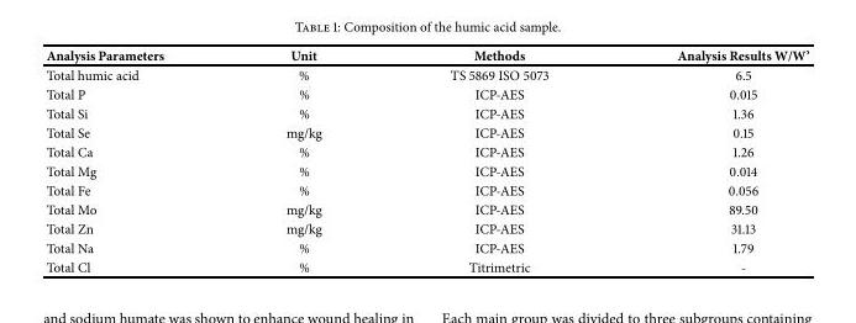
<table><thead><tr><td>Analysis Parameters</td><td>Unit</td><td>Methods</td><td>Analysis Results W/W’</td></tr></thead><tbody><tr><td>Total humic acid</td><td>%</td><td>TS 5869 ISO 5073</td><td>6.5</td></tr><tr><td>Total P</td><td>%</td><td>ICP-AES</td><td>0.015</td></tr><tr><td>Total Si</td><td>%</td><td>ICP-AES</td><td>1.36</td></tr><tr><td>Total Se</td><td>mg/kg</td><td>ICP-AES</td><td>0.15</td></tr><tr><td>Total Ca</td><td>%</td><td>ICP-AES</td><td>1.26</td></tr><tr><td>Total Mg</td><td>%</td><td>ICP-AES</td><td>0.014</td></tr><tr><td>Total Fe</td><td>%</td><td>ICP-AES</td><td>0.056</td></tr><tr><td>Total Mo</td><td>mg/kg</td><td>ICP-AES</td><td>89.50</td></tr><tr><td>Total Zn</td><td>mg/kg</td><td>ICP-AES</td><td>31.13</td></tr><tr><td>Total Na</td><td>%</td><td>ICP-AES</td><td>1.79</td></tr><tr><td>Total Cl</td><td>%</td><td>Titrimetric</td><td>-</td></tr></tbody></table>